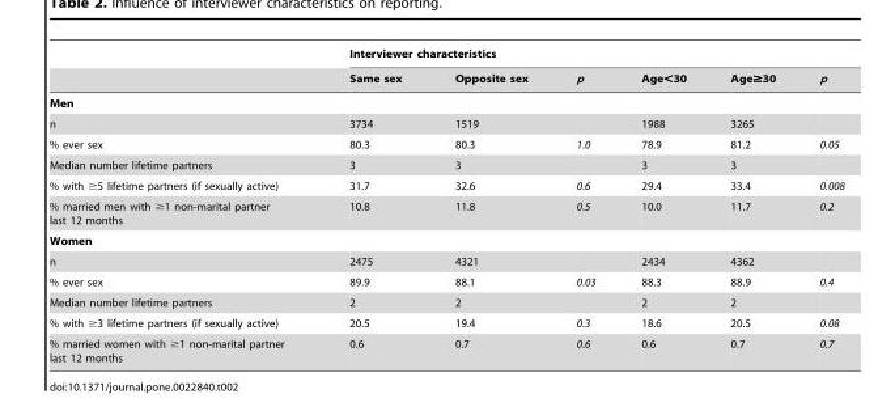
<table><thead><tr><td rowspan="2"></td><td colspan="6">Interviewer characteristics</td></tr><tr><td>Same sex</td><td>Opposite sex</td><td>p</td><td>Age&lt;30</td><td>Age≥30</td><td>p</td></tr></thead><tbody><tr><td colspan="7">Men</td></tr><tr><td>n</td><td>3734</td><td>1519</td><td></td><td>1988</td><td>3265</td><td></td></tr><tr><td>% ever sex</td><td>80.3</td><td>80.3</td><td>1.0</td><td>78.9</td><td>81.2</td><td>0.05</td></tr><tr><td>Median number lifetime partners</td><td>3</td><td>3</td><td></td><td>3</td><td>3</td><td></td></tr><tr><td>% with ≥5 lifetime partners (if sexually active)</td><td>31.7</td><td>32.6</td><td>0.6</td><td>29.4</td><td>33.4</td><td>0.008</td></tr><tr><td>% married men with ≥1 non-marital partner last 12 months</td><td>10.8</td><td>11.8</td><td>0.5</td><td>10.0</td><td>11.7</td><td>0.2</td></tr><tr><td colspan="7">Women</td></tr><tr><td>n</td><td>2475</td><td>4321</td><td></td><td>2434</td><td>4362</td><td></td></tr><tr><td>% ever sex</td><td>89.9</td><td>88.1</td><td>0.03</td><td>88.3</td><td>88.9</td><td>0.4</td></tr><tr><td>Median number lifetime partners</td><td>2</td><td>2</td><td></td><td>2</td><td>2</td><td></td></tr><tr><td>% with ≥3 lifetime partners (if sexually active)</td><td>20.5</td><td>19.4</td><td>0.3</td><td>18.6</td><td>20.5</td><td>0.08</td></tr><tr><td>% married women with ≥1 non-marital partner last 12 months</td><td>0.6</td><td>0.7</td><td>0.6</td><td>0.6</td><td>0.7</td><td>0.7</td></tr></tbody></table>